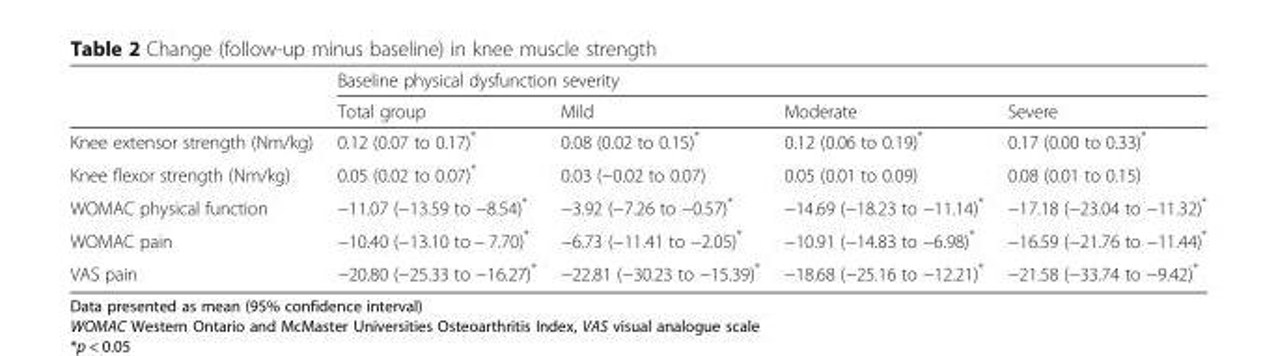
<table><thead><tr><td rowspan="2"></td><td colspan="4">Baseline physical dysfunction severity</td></tr><tr><td>Total group</td><td>Mild</td><td>Moderate</td><td>Severe</td></tr></thead><tbody><tr><td>Knee extensor strength (Nm/kg)</td><td>0.12 (0.07 to 0.17)*</td><td>0.08 (0.02 to 0.15)*</td><td>0.12 (0.06 to 0.19)*</td><td>0.17 (0.00 to 0.33)*</td></tr><tr><td>Knee flexor strength (Nm/kg)</td><td>0.05 (0.02 to 0.07)*</td><td>0.03 (−0.02 to 0.07)</td><td>0.05 (0.01 to 0.09)</td><td>0.08 (0.01 to 0.15)</td></tr><tr><td>WOMAC physical function</td><td>−11.07 (−13.59 to −8.54)*</td><td>−3.92 (−7.26 to −0.57)*</td><td>−14.69 (−18.23 to −11.14)*</td><td>−17.18 (−23.04 to −11.32)*</td></tr><tr><td>WOMAC pain</td><td>−10.40 (−13.10 to − 7.70)*</td><td>−6.73 (−11.41 to −2.05)*</td><td>−10.91 (−14.83 to −6.98)*</td><td>−16.59 (−21.76 to −11.44)*</td></tr><tr><td>VAS pain</td><td>−20.80 (−25.33 to −16.27)*</td><td>−22.81 (−30.23 to −15.39)*</td><td>−18.68 (−25.16 to −12.21)*</td><td>−21.58 (−33.74 to −9.42)*</td></tr></tbody></table>